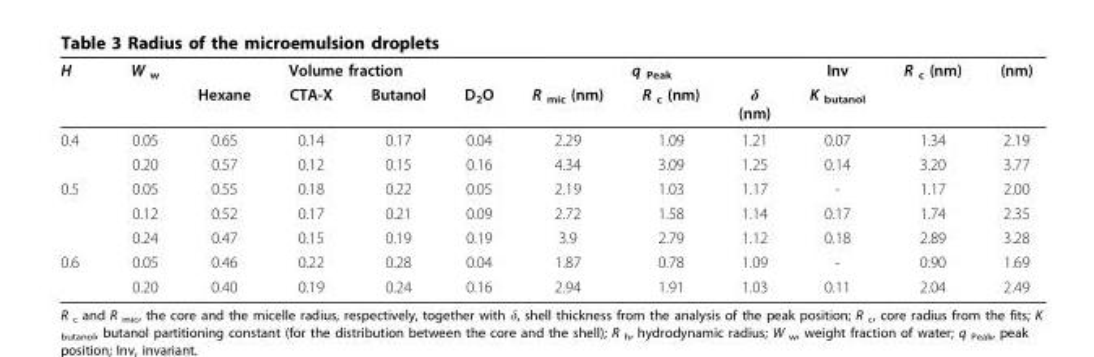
<table><thead><tr><td rowspan="2">H</td><td rowspan="2">W <sub>w</sub></td><td colspan="4">Volume fraction</td><td colspan="3">q <sub>Peak</sub></td><td rowspan="2">Inv K <sub>butanol</sub></td><td rowspan="2">R <sub>c</sub> (nm)</td><td rowspan="2">(nm)</td></tr><tr><td>Hexane</td><td>CTA-X</td><td>Butanol</td><td>D<sub>2</sub>O</td><td>R <sub>mic</sub> (nm)</td><td>R <sub>c</sub> (nm)</td><td>δ (nm)</td></tr></thead><tbody><tr><td rowspan="2">0.4</td><td>0.05</td><td>0.65</td><td>0.14</td><td>0.17</td><td>0.04</td><td>2.29</td><td>1.09</td><td>1.21</td><td>0.07</td><td>1.34</td><td>2.19</td></tr><tr><td>0.20</td><td>0.57</td><td>0.12</td><td>0.15</td><td>0.16</td><td>4.34</td><td>3.09</td><td>1.25</td><td>0.14</td><td>3.20</td><td>3.77</td></tr><tr><td rowspan="3">0.5</td><td>0.05</td><td>0.55</td><td>0.18</td><td>0.22</td><td>0.05</td><td>2.19</td><td>1.03</td><td>1.17</td><td>-</td><td>1.17</td><td>2.00</td></tr><tr><td>0.12</td><td>0.52</td><td>0.17</td><td>0.21</td><td>0.09</td><td>2.72</td><td>1.58</td><td>1.14</td><td>0.17</td><td>1.74</td><td>2.35</td></tr><tr><td>0.24</td><td>0.47</td><td>0.15</td><td>0.19</td><td>0.19</td><td>3.9</td><td>2.79</td><td>1.12</td><td>0.18</td><td>2.89</td><td>3.28</td></tr><tr><td rowspan="2">0.6</td><td>0.05</td><td>0.46</td><td>0.22</td><td>0.28</td><td>0.04</td><td>1.87</td><td>0.78</td><td>1.09</td><td>-</td><td>0.90</td><td>1.69</td></tr><tr><td>0.20</td><td>0.40</td><td>0.19</td><td>0.24</td><td>0.16</td><td>2.94</td><td>1.91</td><td>1.03</td><td>0.11</td><td>2.04</td><td>2.49</td></tr></tbody></table>